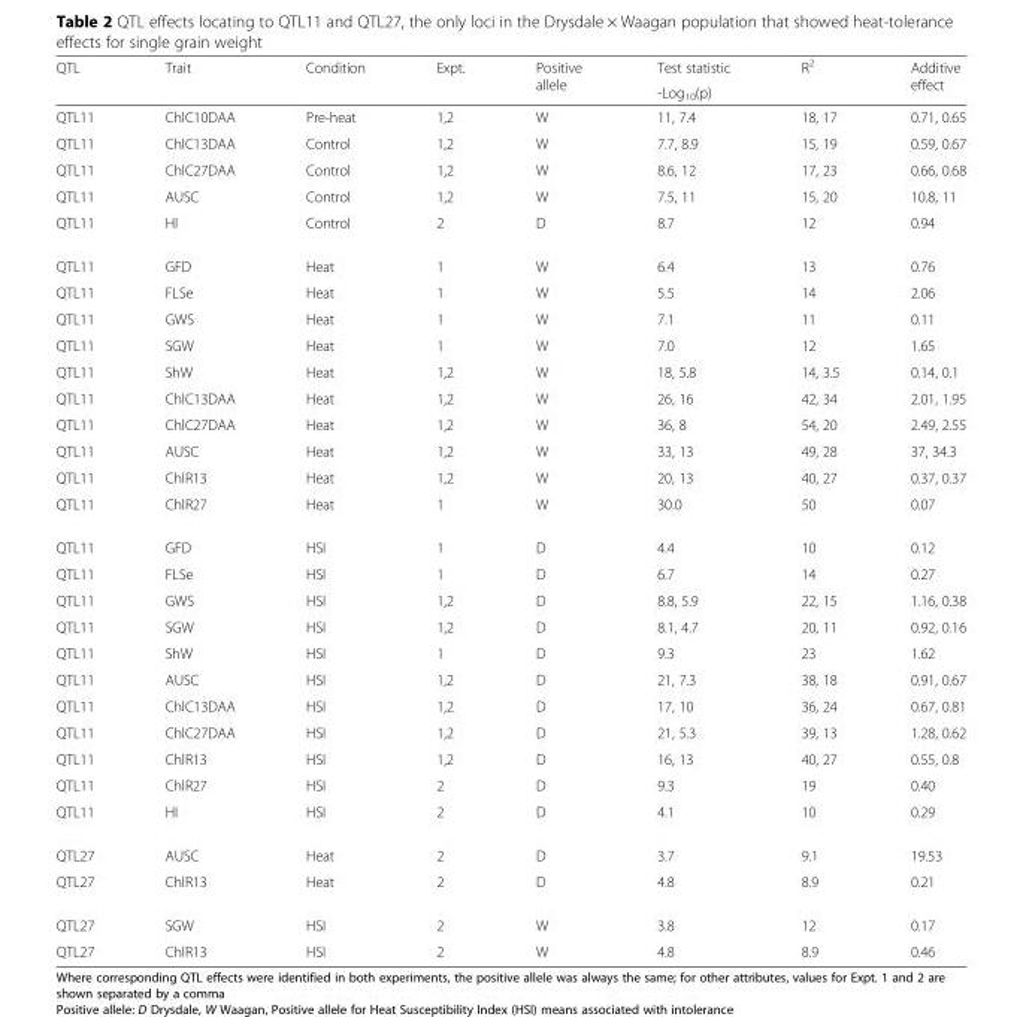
<table><thead><tr><td rowspan="2">QTL</td><td rowspan="2">Trait</td><td rowspan="2">Condition</td><td rowspan="2">Expt.</td><td rowspan="2">Positive allele</td><td rowspan="2">Test statistic -Log<sub>10</sub>(p)</td><td rowspan="2">R<sup>2</sup></td><td rowspan="2">Additive effect</td></tr><tr></tr></thead><tbody><tr><td>QTL11</td><td>ChlC10DAA</td><td>Pre-heat</td><td>1,2</td><td>W</td><td>11, 7.4</td><td>18, 17</td><td>0.71, 0.65</td></tr><tr><td>QTL11</td><td>ChlC13DAA</td><td>Control</td><td>1,2</td><td>W</td><td>7.7, 8.9</td><td>15, 19</td><td>0.59, 0.67</td></tr><tr><td>QTL11</td><td>ChlC27DAA</td><td>Control</td><td>1,2</td><td>W</td><td>8.6, 12</td><td>17, 23</td><td>0.66, 0.68</td></tr><tr><td>QTL11</td><td>AUSC</td><td>Control</td><td>1,2</td><td>W</td><td>7.5, 11</td><td>15, 20</td><td>10.8, 11</td></tr><tr><td>QTL11</td><td>HI</td><td>Control</td><td>2</td><td>D</td><td>8.7</td><td>12</td><td>0.94</td></tr><tr><td>QTL11</td><td>GFD</td><td>Heat</td><td>1</td><td>W</td><td>6.4</td><td>13</td><td>0.76</td></tr><tr><td>QTL11</td><td>FLSe</td><td>Heat</td><td>1</td><td>W</td><td>5.5</td><td>14</td><td>2.06</td></tr><tr><td>QTL11</td><td>GWS</td><td>Heat</td><td>1</td><td>W</td><td>7.1</td><td>11</td><td>0.11</td></tr><tr><td>QTL11</td><td>SGW</td><td>Heat</td><td>1</td><td>W</td><td>7.0</td><td>12</td><td>1.65</td></tr><tr><td>QTL11</td><td>ShW</td><td>Heat</td><td>1,2</td><td>W</td><td>18, 5.8</td><td>14, 3.5</td><td>0.14, 0.1</td></tr><tr><td>QTL11</td><td>ChlC13DAA</td><td>Heat</td><td>1,2</td><td>W</td><td>26, 16</td><td>42, 34</td><td>2.01, 1.95</td></tr><tr><td>QTL11</td><td>ChlC27DAA</td><td>Heat</td><td>1,2</td><td>W</td><td>36, 8</td><td>54, 20</td><td>2.49, 2.55</td></tr><tr><td>QTL11</td><td>AUSC</td><td>Heat</td><td>1,2</td><td>W</td><td>33, 13</td><td>49, 28</td><td>37, 34.3</td></tr><tr><td>QTL11</td><td>ChlR13</td><td>Heat</td><td>1,2</td><td>W</td><td>20, 13</td><td>40, 27</td><td>0.37, 0.37</td></tr><tr><td>QTL11</td><td>ChlR27</td><td>Heat</td><td>1</td><td>W</td><td>30.0</td><td>50</td><td>0.07</td></tr><tr><td>QTL11</td><td>GFD</td><td>HSI</td><td>1</td><td>D</td><td>4.4</td><td>10</td><td>0.12</td></tr><tr><td>QTL11</td><td>FLSe</td><td>HSI</td><td>1</td><td>D</td><td>6.7</td><td>14</td><td>0.27</td></tr><tr><td>QTL11</td><td>GWS</td><td>HSI</td><td>1,2</td><td>D</td><td>8.8, 5.9</td><td>22, 15</td><td>1.16, 0.38</td></tr><tr><td>QTL11</td><td>SGW</td><td>HSI</td><td>1,2</td><td>D</td><td>8.1, 4.7</td><td>20, 11</td><td>0.92, 0.16</td></tr><tr><td>QTL11</td><td>ShW</td><td>HSI</td><td>1</td><td>D</td><td>9.3</td><td>23</td><td>1.62</td></tr><tr><td>QTL11</td><td>AUSC</td><td>HSI</td><td>1,2</td><td>D</td><td>21, 7.3</td><td>38, 18</td><td>0.91, 0.67</td></tr><tr><td>QTL11</td><td>ChlC13DAA</td><td>HSI</td><td>1,2</td><td>D</td><td>17, 10</td><td>36, 24</td><td>0.67, 0.81</td></tr><tr><td>QTL11</td><td>ChlC27DAA</td><td>HSI</td><td>1,2</td><td>D</td><td>21, 5.3</td><td>39, 13</td><td>1.28, 0.62</td></tr><tr><td>QTL11</td><td>ChlR13</td><td>HSI</td><td>1,2</td><td>D</td><td>16, 13</td><td>40, 27</td><td>0.55, 0.8</td></tr><tr><td>QTL11</td><td>ChlR27</td><td>HSI</td><td>2</td><td>D</td><td>9.3</td><td>19</td><td>0.40</td></tr><tr><td>QTL11</td><td>HI</td><td>HSI</td><td>2</td><td>D</td><td>4.1</td><td>10</td><td>0.29</td></tr><tr><td>QTL27</td><td>AUSC</td><td>Heat</td><td>2</td><td>D</td><td>3.7</td><td>9.1</td><td>19.53</td></tr><tr><td>QTL27</td><td>ChlR13</td><td>Heat</td><td>2</td><td>D</td><td>4.8</td><td>8.9</td><td>0.21</td></tr><tr><td>QTL27</td><td>SGW</td><td>HSI</td><td>2</td><td>W</td><td>3.8</td><td>12</td><td>0.17</td></tr><tr><td>QTL27</td><td>ChlR13</td><td>HSI</td><td>2</td><td>W</td><td>4.8</td><td>8.9</td><td>0.46</td></tr></tbody></table>